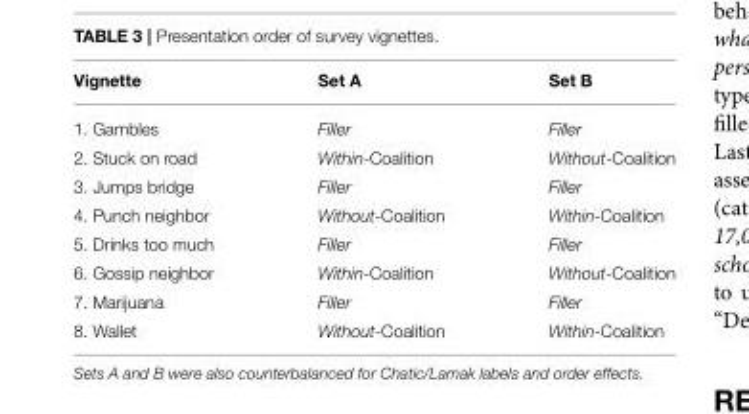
<table><thead><tr><td>Vignette</td><td>Set A</td><td>Set B</td></tr></thead><tbody><tr><td>1. Gambles</td><td>Filler</td><td>Filler</td></tr><tr><td>2. Stuck on road</td><td>Within-Coalition</td><td>Without-Coalition</td></tr><tr><td>3. Jumps bridge</td><td>Filler</td><td>Filler</td></tr><tr><td>4. Punch neighbor</td><td>Without-Coalition</td><td>Within-Coalition</td></tr><tr><td>5. Drinks too much</td><td>Filler</td><td>Filler</td></tr><tr><td>6. Gossip neighbor</td><td>Within-Coalition</td><td>Without-Coalition</td></tr><tr><td>7. Marijuana</td><td>Filler</td><td>Filler</td></tr><tr><td>8. Wallet</td><td>Without-Coalition</td><td>Within-Coalition</td></tr></tbody></table>